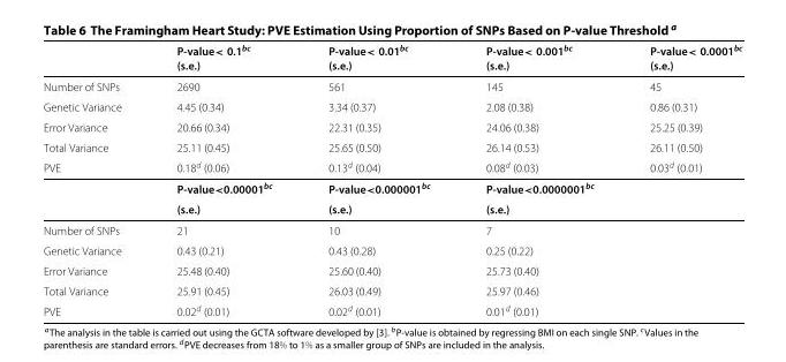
<table><thead><tr><td rowspan="2"></td><td rowspan="2">P-value&lt; 0.1bc (s.e.)</td><td rowspan="2">P-value&lt; 0.01bc (s.e.)</td><td rowspan="2">P-value&lt; 0.001bc (s.e.)</td><td rowspan="2">P-value&lt; 0.0001bc (s.e.)</td></tr><tr></tr></thead><tbody><tr><td>Number of SNPs</td><td>2690</td><td>561</td><td>145</td><td>45</td></tr><tr><td>Genetic Variance</td><td>4.45 (0.34)</td><td>3.34 (0.37)</td><td>2.08 (0.38)</td><td>0.86 (0.31)</td></tr><tr><td>Error Variance</td><td>20.66 (0.34)</td><td>22.31 (0.35)</td><td>24.06 (0.38)</td><td>25.25 (0.39)</td></tr><tr><td>Total Variance</td><td>25.11 (0.45)</td><td>25.65 (0.50)</td><td>26.14 (0.53)</td><td>26.11 (0.50)</td></tr><tr><td rowspan="3">PVE</td><td>0.18<sup>d</sup> (0.06)</td><td>0.13<sup>d</sup> (0.04)</td><td>0.08<sup>d</sup> (0.03)</td><td>0.03<sup>d</sup> (0.01)</td></tr><tr><td>P-value&lt;0.00001<sup>bc</sup></td><td>P-value&lt;0.000001<sup>bc</sup></td><td>P-value&lt;0.0000001<sup>bc</sup></td><td></td></tr><tr><td>(s.e.)</td><td>(s.e.)</td><td>(s.e.)</td><td></td></tr><tr><td>Number of SNPs</td><td>21</td><td>10</td><td>7</td><td></td></tr><tr><td>Genetic Variance</td><td>0.43 (0.21)</td><td>0.43 (0.28)</td><td>0.25 (0.22)</td><td></td></tr><tr><td>Error Variance</td><td>25.48 (0.40)</td><td>25.60 (0.40)</td><td>25.73 (0.40)</td><td></td></tr><tr><td>Total Variance</td><td>25.91 (0.45)</td><td>26.03 (0.49)</td><td>25.97 (0.46)</td><td></td></tr><tr><td>PVE</td><td>0.02<sup>d</sup> (0.01)</td><td>0.02<sup>d</sup> (0.01)</td><td>0.01<sup>d</sup> (0.01)</td><td></td></tr></tbody></table>